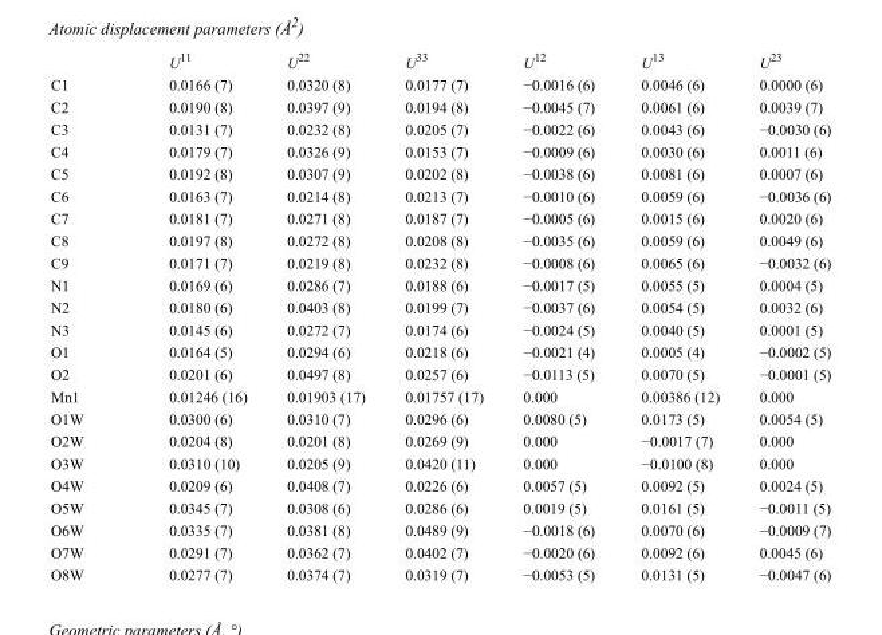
<table><thead><tr><td></td><td>U<sup>11</sup></td><td>U<sup>22</sup></td><td>U<sup>33</sup></td><td>U<sup>12</sup></td><td>U<sup>13</sup></td><td>U<sup>23</sup></td></tr></thead><tbody><tr><td>C1</td><td>0.0166 (7)</td><td>0.0320 (8)</td><td>0.0177 (7)</td><td>−0.0016 (6)</td><td>0.0046 (6)</td><td>0.0000 (6)</td></tr><tr><td>C2</td><td>0.0190 (8)</td><td>0.0397 (9)</td><td>0.0194 (8)</td><td>−0.0045 (7)</td><td>0.0061 (6)</td><td>0.0039 (7)</td></tr><tr><td>C3</td><td>0.0131 (7)</td><td>0.0232 (8)</td><td>0.0205 (7)</td><td>−0.0022 (6)</td><td>0.0043 (6)</td><td>−0.0030 (6)</td></tr><tr><td>C4</td><td>0.0179 (7)</td><td>0.0326 (9)</td><td>0.0153 (7)</td><td>−0.0009 (6)</td><td>0.0030 (6)</td><td>0.0011 (6)</td></tr><tr><td>C5</td><td>0.0192 (8)</td><td>0.0307 (9)</td><td>0.0202 (8)</td><td>−0.0038 (6)</td><td>0.0081 (6)</td><td>0.0007 (6)</td></tr><tr><td>C6</td><td>0.0163 (7)</td><td>0.0214 (8)</td><td>0.0213 (7)</td><td>−0.0010 (6)</td><td>0.0059 (6)</td><td>−0.0036 (6)</td></tr><tr><td>C7</td><td>0.0181 (7)</td><td>0.0271 (8)</td><td>0.0187 (7)</td><td>−0.0005 (6)</td><td>0.0015 (6)</td><td>0.0020 (6)</td></tr><tr><td>C8</td><td>0.0197 (8)</td><td>0.0272 (8)</td><td>0.0208 (8)</td><td>−0.0035 (6)</td><td>0.0059 (6)</td><td>0.0049 (6)</td></tr><tr><td>C9</td><td>0.0171 (7)</td><td>0.0219 (8)</td><td>0.0232 (8)</td><td>−0.0008 (6)</td><td>0.0065 (6)</td><td>−0.0032 (6)</td></tr><tr><td>N1</td><td>0.0169 (6)</td><td>0.0286 (7)</td><td>0.0188 (6)</td><td>−0.0017 (5)</td><td>0.0055 (5)</td><td>0.0004 (5)</td></tr><tr><td>N2</td><td>0.0180 (6)</td><td>0.0403 (8)</td><td>0.0199 (7)</td><td>−0.0037 (6)</td><td>0.0054 (5)</td><td>0.0032 (6)</td></tr><tr><td>N3</td><td>0.0145 (6)</td><td>0.0272 (7)</td><td>0.0174 (6)</td><td>−0.0024 (5)</td><td>0.0040 (5)</td><td>0.0001 (5)</td></tr><tr><td>O1</td><td>0.0164 (5)</td><td>0.0294 (6)</td><td>0.0218 (6)</td><td>−0.0021 (4)</td><td>0.0005 (4)</td><td>−0.0002 (5)</td></tr><tr><td>O2</td><td>0.0201 (6)</td><td>0.0497 (8)</td><td>0.0257 (6)</td><td>−0.0113 (5)</td><td>0.0070 (5)</td><td>−0.0001 (5)</td></tr><tr><td>Mn1</td><td>0.01246 (16)</td><td>0.01903 (17)</td><td>0.01757 (17)</td><td>0.000</td><td>0.00386 (12)</td><td>0.000</td></tr><tr><td>O1W</td><td>0.0300 (6)</td><td>0.0310 (7)</td><td>0.0296 (6)</td><td>0.0080 (5)</td><td>0.0173 (5)</td><td>0.0054 (5)</td></tr><tr><td>O2W</td><td>0.0204 (8)</td><td>0.0201 (8)</td><td>0.0269 (9)</td><td>0.000</td><td>−0.0017 (7)</td><td>0.000</td></tr><tr><td>O3W</td><td>0.0310 (10)</td><td>0.0205 (9)</td><td>0.0420 (11)</td><td>0.000</td><td>−0.0100 (8)</td><td>0.000</td></tr><tr><td>O4W</td><td>0.0209 (6)</td><td>0.0408 (7)</td><td>0.0226 (6)</td><td>0.0057 (5)</td><td>0.0092 (5)</td><td>0.0024 (5)</td></tr><tr><td>O5W</td><td>0.0345 (7)</td><td>0.0308 (6)</td><td>0.0286 (6)</td><td>0.0019 (5)</td><td>0.0161 (5)</td><td>−0.0011 (5)</td></tr><tr><td>O6W</td><td>0.0335 (7)</td><td>0.0381 (8)</td><td>0.0489 (9)</td><td>−0.0018 (6)</td><td>0.0070 (6)</td><td>−0.0009 (7)</td></tr><tr><td>O7W</td><td>0.0291 (7)</td><td>0.0362 (7)</td><td>0.0402 (7)</td><td>−0.0020 (6)</td><td>0.0092 (6)</td><td>0.0045 (6)</td></tr><tr><td>O8W</td><td>0.0277 (7)</td><td>0.0374 (7)</td><td>0.0319 (7)</td><td>−0.0053 (5)</td><td>0.0131 (5)</td><td>−0.0047 (6)</td></tr></tbody></table>